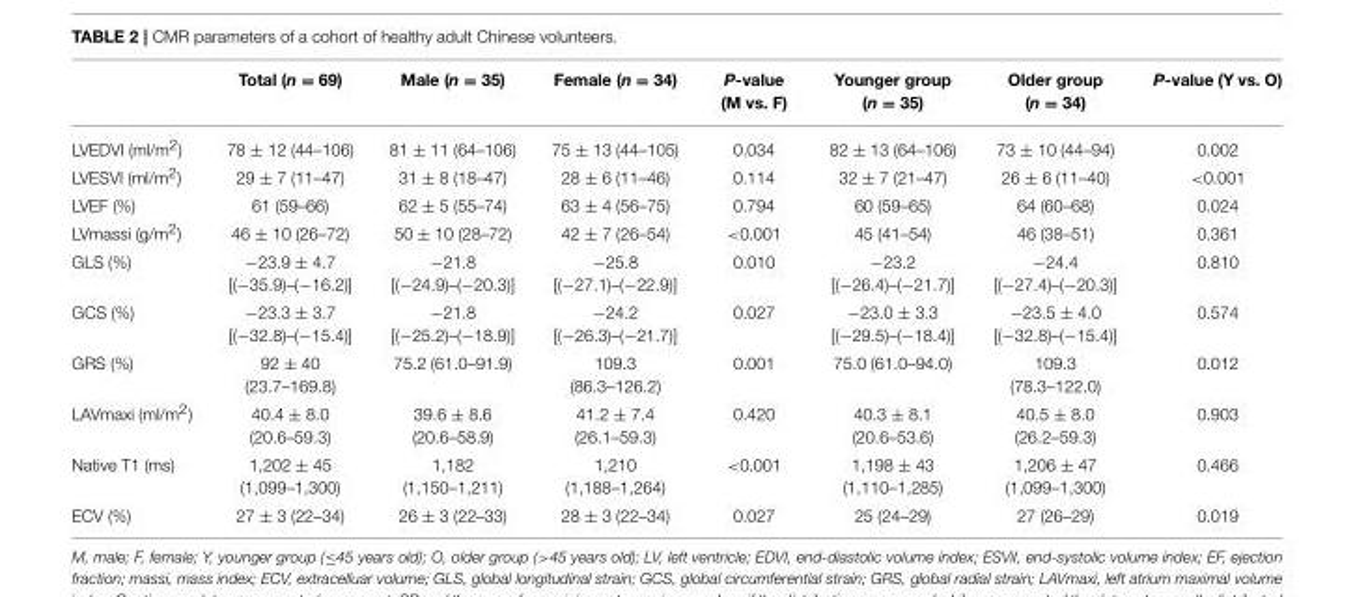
<table><thead><tr><td></td><td>Total (n = 69)</td><td>Male (n = 35)</td><td>Female (n = 34)</td><td>P-value (M vs. F)</td><td>Younger group (n = 35)</td><td>Older group (n = 34)</td><td>P-value (Y vs. O)</td></tr></thead><tbody><tr><td>LVEDVI (ml/m<sup>2</sup>)</td><td>78 ± 12 (44–106)</td><td>81 ± 11 (64–106)</td><td>75 ± 13 (44–105)</td><td>0.034</td><td>82 ± 13 (64–106)</td><td>73 ± 10 (44–94)</td><td>0.002</td></tr><tr><td>LVESVI (ml/m<sup>2</sup>)</td><td>29 ± 7 (11–47)</td><td>31 ± 8 (18–47)</td><td>28 ± 6 (11–46)</td><td>0.114</td><td>32 ± 7 (21–47)</td><td>26 ± 6 (11–40)</td><td>&lt;0.001</td></tr><tr><td>LVEF (%)</td><td>61 (59–66)</td><td>62 ± 5 (55–74)</td><td>63 ± 4 (56–75)</td><td>0.794</td><td>60 (59–65)</td><td>64 (60–68)</td><td>0.024</td></tr><tr><td>LVmassi (g/m<sup>2</sup>)</td><td>46 ± 10 (26–72)</td><td>50 ± 10 (28–72)</td><td>42 ± 7 (26–54)</td><td>&lt;0.001</td><td>45 (41–54)</td><td>46 (38–51)</td><td>0.361</td></tr><tr><td>GLS (%)</td><td>−23.9 ± 4.7 [(−35.9)–(−16.2)]</td><td>−21.8 [(−24.9)–(−20.3)]</td><td>−25.8 [(−27.1)–(−22.9)]</td><td>0.010</td><td>−23.2 [(−26.4)–(−21.7)]</td><td>−24.4 [(−27.4)–(−20.3)]</td><td>0.810</td></tr><tr><td>GCS (%)</td><td>−23.3 ± 3.7 [(−32.8)–(−15.4)]</td><td>−21.8 [(−25.2)–(−18.9)]</td><td>−24.2 [(−26.3)–(−21.7)]</td><td>0.027</td><td>−23.0 ± 3.3 [(−29.5)–(−18.4)]</td><td>−23.5 ± 4.0 [(−32.8)–(−15.4)]</td><td>0.574</td></tr><tr><td>GRS (%)</td><td>92 ± 40 (23.7–169.8)</td><td>75.2 (61.0–91.9)</td><td>109.3 (86.3–126.2)</td><td>0.001</td><td>75.0 (61.0–94.0)</td><td>109.3 (78.3–122.0)</td><td>0.012</td></tr><tr><td>LAVmaxi (ml/m<sup>2</sup>)</td><td>40.4 ± 8.0 (20.6–59.3)</td><td>39.6 ± 8.6 (20.6–58.9)</td><td>41.2 ± 7.4 (26.1–59.3)</td><td>0.420</td><td>40.3 ± 8.1 (20.6–53.6)</td><td>40.5 ± 8.0 (26.2–59.3)</td><td>0.903</td></tr><tr><td>Native T1 (ms)</td><td>1,202 ± 45 (1,099–1,300)</td><td>1,182 (1,150–1,211)</td><td>1,210 (1,188–1,264)</td><td>&lt;0.001</td><td>1,198 ± 43 (1,110–1,285)</td><td>1,206 ± 47 (1,099–1,300)</td><td>0.466</td></tr><tr><td>ECV (%)</td><td>27 ± 3 (22–34)</td><td>26 ± 3 (22–33)</td><td>28 ± 3 (22–34)</td><td>0.027</td><td>25 (24–29)</td><td>27 (26–29)</td><td>0.019</td></tr></tbody></table>